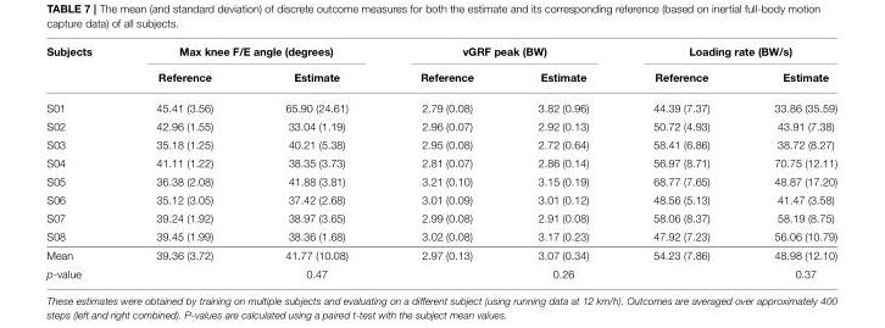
<table><thead><tr><td rowspan="2">Subjects</td><td colspan="2">Max knee F/E angle (degrees)</td><td colspan="2">vGRF peak (BW)</td><td colspan="2">Loading rate (BW/s)</td></tr><tr><td>Reference</td><td>Estimate</td><td>Reference</td><td>Estimate</td><td>Reference</td><td>Estimate</td></tr></thead><tbody><tr><td>S01</td><td>45.41 (3.56)</td><td>65.90 (24.61)</td><td>2.79 (0.08)</td><td>3.82 (0.96)</td><td>44.39 (7.37)</td><td>33.86 (35.59)</td></tr><tr><td>S02</td><td>42.96 (1.55)</td><td>33.04 (1.19)</td><td>2.96 (0.07)</td><td>2.92 (0.13)</td><td>50.72 (4.93)</td><td>43.91 (7.38)</td></tr><tr><td>S03</td><td>35.18 (1.25)</td><td>40.21 (5.38)</td><td>2.95 (0.08)</td><td>2.72 (0.64)</td><td>58.41 (6.86)</td><td>38.72 (8.27)</td></tr><tr><td>S04</td><td>41.11 (1.22)</td><td>38.35 (3.73)</td><td>2.81 (0.07)</td><td>2.86 (0.14)</td><td>56.97 (8.71)</td><td>70.75 (12.11)</td></tr><tr><td>S05</td><td>36.38 (2.08)</td><td>41.88 (3.81)</td><td>3.21 (0.10)</td><td>3.15 (0.19)</td><td>68.77 (7.65)</td><td>48.87 (17.20)</td></tr><tr><td>S06</td><td>35.12 (3.05)</td><td>37.42 (2.68)</td><td>3.01 (0.09)</td><td>3.01 (0.12)</td><td>48.56 (5.13)</td><td>41.47 (3.58)</td></tr><tr><td>S07</td><td>39.24 (1.92)</td><td>38.97 (3.65)</td><td>2.99 (0.08)</td><td>2.91 (0.08)</td><td>58.06 (8.37)</td><td>58.19 (8.75)</td></tr><tr><td>S08</td><td>39.45 (1.99)</td><td>38.36 (1.68)</td><td>3.02 (0.08)</td><td>3.17 (0.23)</td><td>47.92 (7.23)</td><td>56.06 (10.79)</td></tr><tr><td>Mean</td><td>39.36 (3.72)</td><td>41.77 (10.08)</td><td>2.97 (0.13)</td><td>3.07 (0.34)</td><td>54.23 (7.86)</td><td>48.98 (12.10)</td></tr><tr><td>p-value</td><td></td><td>0.47</td><td></td><td>0.26</td><td></td><td>0.37</td></tr></tbody></table>